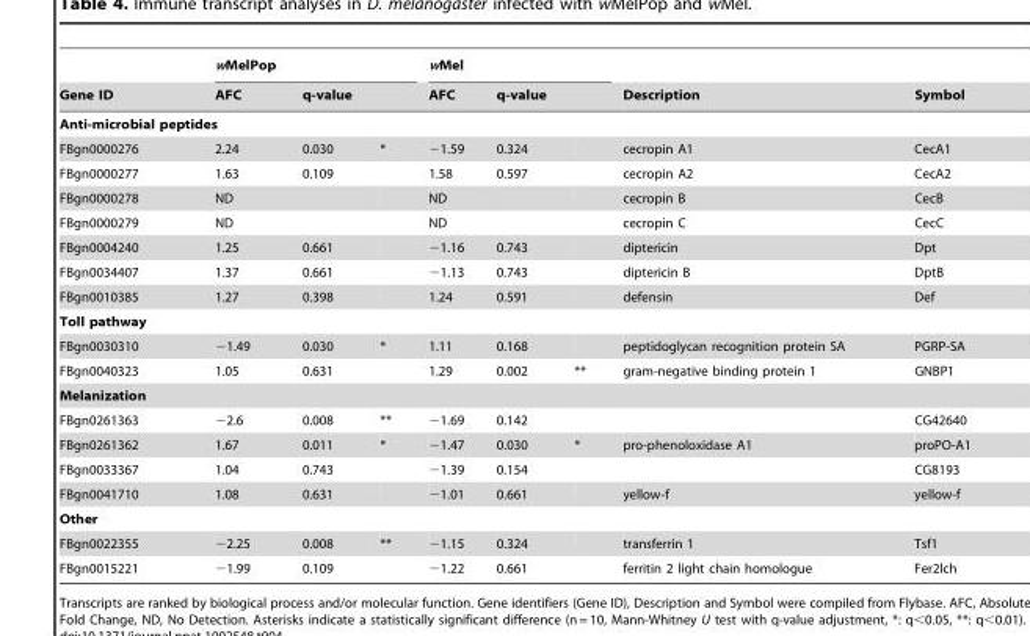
<table><thead><tr><td rowspan="2">Gene ID</td><td colspan="3">wMelPop</td><td colspan="3">wMel</td><td rowspan="2">Description</td><td rowspan="2">Symbol</td></tr><tr><td>AFC</td><td colspan="2">q-value</td><td>AFC</td><td colspan="2">q-value</td></tr><tr><td colspan="9">Anti-microbial peptides</td></tr><tr><td>FBgn0000276</td><td>2.24</td><td>0.030</td><td>*</td><td>−1.59</td><td>0.324</td><td></td><td>cecropin A1</td><td>CecA1</td></tr></thead><tbody><tr><td>FBgn0000277</td><td>1.63</td><td>0.109</td><td></td><td>1.58</td><td>0.597</td><td></td><td>cecropin A2</td><td>CecA2</td></tr><tr><td>FBgn0000278</td><td>ND</td><td></td><td></td><td>ND</td><td></td><td></td><td>cecropin B</td><td>CecB</td></tr><tr><td>FBgn0000279</td><td>ND</td><td></td><td></td><td>ND</td><td></td><td></td><td>cecropin C</td><td>CecC</td></tr><tr><td>FBgn0004240</td><td>1.25</td><td>0.661</td><td></td><td>−1.16</td><td>0.743</td><td></td><td>diptericin</td><td>Dpt</td></tr><tr><td>FBgn0034407</td><td>1.37</td><td>0.661</td><td></td><td>−1.13</td><td>0.743</td><td></td><td>diptericin B</td><td>DptB</td></tr><tr><td>FBgn0010385</td><td>1.27</td><td>0.398</td><td></td><td>1.24</td><td>0.591</td><td></td><td>defensin</td><td>Def</td></tr><tr><td colspan="9">Toll pathway</td></tr><tr><td>FBgn0030310</td><td>−1.49</td><td>0.030</td><td>*</td><td>1.11</td><td>0.168</td><td></td><td>peptidoglycan recognition protein SA</td><td>PGRP-SA</td></tr><tr><td>FBgn0040323</td><td>1.05</td><td>0.631</td><td></td><td>1.29</td><td>0.002</td><td>**</td><td>gram-negative binding protein 1</td><td>GNBP1</td></tr><tr><td colspan="9">Melanization</td></tr><tr><td>FBgn0261363</td><td>−2.6</td><td>0.008</td><td>**</td><td>−1.69</td><td>0.142</td><td></td><td></td><td>CG42640</td></tr><tr><td>FBgn0261362</td><td>1.67</td><td>0.011</td><td>*</td><td>−1.47</td><td>0.030</td><td>*</td><td>pro-phenoloxidase A1</td><td>proPO-A1</td></tr><tr><td>FBgn0033367</td><td>1.04</td><td>0.743</td><td></td><td>−1.39</td><td>0.154</td><td></td><td></td><td>CG8193</td></tr><tr><td>FBgn0041710</td><td>1.08</td><td>0.631</td><td></td><td>−1.01</td><td>0.661</td><td></td><td>yellow-f</td><td>yellow-f</td></tr><tr><td colspan="9">Other</td></tr><tr><td>FBgn0022355</td><td>−2.25</td><td>0.008</td><td>**</td><td>−1.15</td><td>0.324</td><td></td><td>transferrin 1</td><td>Tsf1</td></tr><tr><td>FBgn0015221</td><td>−1.99</td><td>0.109</td><td></td><td>−1.22</td><td>0.661</td><td></td><td>ferritin 2 light chain homologue</td><td>Fer2lch</td></tr></tbody></table>